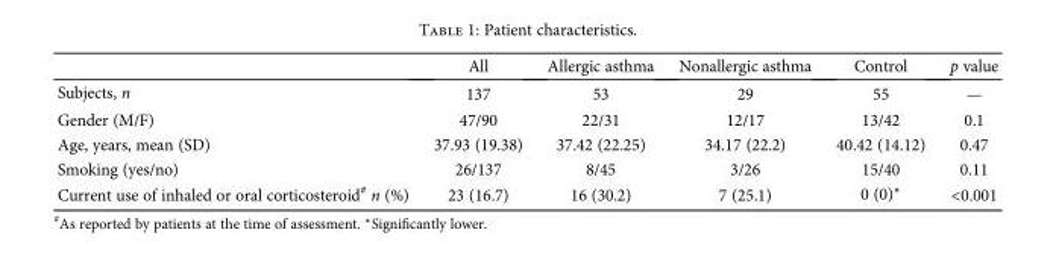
<table><thead><tr><td></td><td>All</td><td>Allergic asthma</td><td>Nonallergic asthma</td><td>Control</td><td>p value</td></tr></thead><tbody><tr><td>Subjects, n</td><td>137</td><td>53</td><td>29</td><td>55</td><td>—</td></tr><tr><td>Gender (M/F)</td><td>47/90</td><td>22/31</td><td>12/17</td><td>13/42</td><td>0.1</td></tr><tr><td>Age, years, mean (SD)</td><td>37.93 (19.38)</td><td>37.42 (22.25)</td><td>34.17 (22.2)</td><td>40.42 (14.12)</td><td>0.47</td></tr><tr><td>Smoking (yes/no)</td><td>26/137</td><td>8/45</td><td>3/26</td><td>15/40</td><td>0.11</td></tr><tr><td>Current use of inhaled or oral corticosteroid<sup>#</sup> n (%)</td><td>23 (16.7)</td><td>16 (30.2)</td><td>7 (25.1)</td><td>0 (0)∗</td><td>&lt;0.001</td></tr></tbody></table>